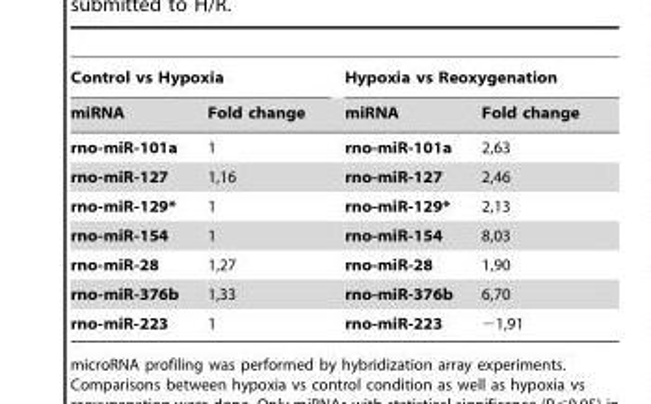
<table><thead><tr><td colspan="2">Control vs Hypoxia</td><td colspan="2">Hypoxia vs Reoxygenation</td></tr><tr><td>miRNA</td><td>Fold change</td><td>miRNA</td><td>Fold change</td></tr></thead><tbody><tr><td>rno-miR-101a</td><td>1</td><td>rno-miR-101a</td><td>2,63</td></tr><tr><td>rno-miR-127</td><td>1,16</td><td>rno-miR-127</td><td>2,46</td></tr><tr><td>rno-miR-129*</td><td>1</td><td>rno-miR-129*</td><td>2,13</td></tr><tr><td>rno-miR-154</td><td>1</td><td>rno-miR-154</td><td>8,03</td></tr><tr><td>rno-miR-28</td><td>1,27</td><td>rno-miR-28</td><td>1,90</td></tr><tr><td>rno-miR-376b</td><td>1,33</td><td>rno-miR-376b</td><td>6,70</td></tr><tr><td>rno-miR-223</td><td>1</td><td>rno-miR-223</td><td>−1,91</td></tr></tbody></table>